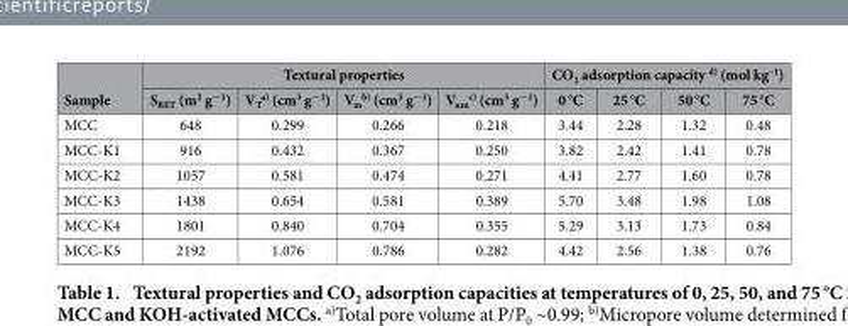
<table><thead><tr><td rowspan="2">Sample</td><td colspan="4">Textural properties</td><td colspan="4">CO<sub>2</sub> adsorption capacity <sup>d)</sup> (mol kg<sup>–1</sup>)</td></tr><tr><td>S<sub>BET</sub> (m<sup>2</sup> g<sup>−1</sup>)</td><td>V<sub>T</sub> <sup>a)</sup> (cm<sup>3</sup> g<sup>−1</sup>)</td><td>V<sub>m</sub> <sup>b)</sup> (cm<sup>3</sup> g<sup>−1</sup>)</td><td>V<sub>nm</sub> <sup>c)</sup> (cm<sup>3</sup> g<sup>−1</sup>)</td><td>0 °C</td><td>25 °C</td><td>50 °C</td><td>75 °C</td></tr></thead><tbody><tr><td>MCC</td><td>648</td><td>0.299</td><td>0.266</td><td>0.218</td><td>3.44</td><td>2.28</td><td>1.32</td><td>0.48</td></tr><tr><td>MCC-K1</td><td>916</td><td>0.432</td><td>0.367</td><td>0.250</td><td>3.82</td><td>2.42</td><td>1.41</td><td>0.78</td></tr><tr><td>MCC-K2</td><td>1057</td><td>0.581</td><td>0.474</td><td>0.271</td><td>4.41</td><td>2.77</td><td>1.60</td><td>0.78</td></tr><tr><td>MCC-K3</td><td>1438</td><td>0.654</td><td>0.581</td><td>0.389</td><td>5.70</td><td>3.48</td><td>1.98</td><td>1.08</td></tr><tr><td>MCC-K4</td><td>1801</td><td>0.840</td><td>0.704</td><td>0.355</td><td>5.29</td><td>3.13</td><td>1.73</td><td>0.84</td></tr><tr><td>MCC-K5</td><td>2192</td><td>1.076</td><td>0.786</td><td>0.282</td><td>4.42</td><td>2.56</td><td>1.38</td><td>0.76</td></tr></tbody></table>